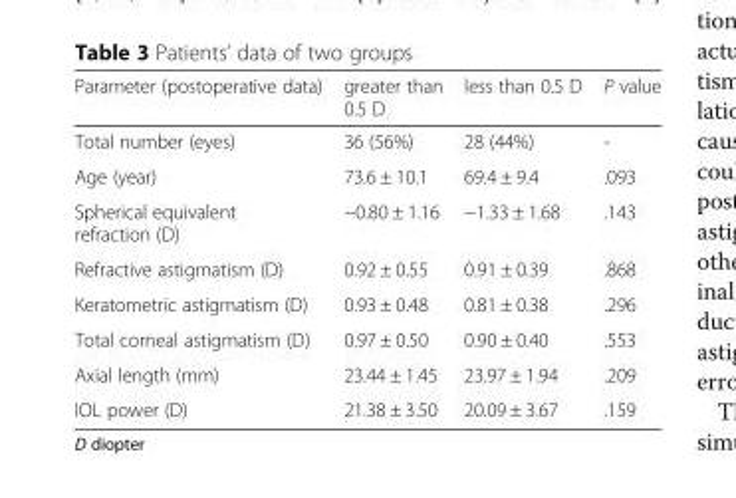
<table><thead><tr><td>Parameter (postoperative data)</td><td>greater than 0.5 D</td><td>less than 0.5 D</td><td>P value</td></tr></thead><tbody><tr><td>Total number (eyes)</td><td>36 (56%)</td><td>28 (44%)</td><td>-</td></tr><tr><td>Age (year)</td><td>73.6 ± 10.1</td><td>69.4 ± 9.4</td><td>.093</td></tr><tr><td>Spherical equivalent refraction (D)</td><td>−0.80 ± 1.16</td><td>−1.33 ± 1.68</td><td>.143</td></tr><tr><td>Refractive astigmatism (D)</td><td>0.92 ± 0.55</td><td>0.91 ± 0.39</td><td>.868</td></tr><tr><td>Keratometric astigmatism (D)</td><td>0.93 ± 0.48</td><td>0.81 ± 0.38</td><td>.296</td></tr><tr><td>Total corneal astigmatism (D)</td><td>0.97 ± 0.50</td><td>0.90 ± 0.40</td><td>.553</td></tr><tr><td>Axial length (mm)</td><td>23.44 ± 1.45</td><td>23.97 ± 1.94</td><td>.209</td></tr><tr><td>IOL power (D)</td><td>21.38 ± 3.50</td><td>20.09 ± 3.67</td><td>.159</td></tr></tbody></table>